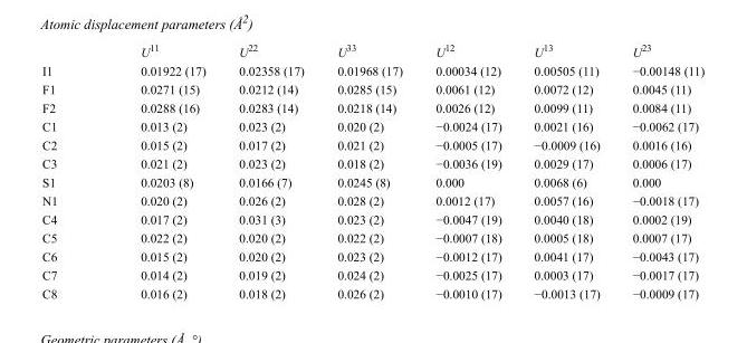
<table><thead><tr><td></td><td>U<sup>11</sup></td><td>U<sup>22</sup></td><td>U<sup>33</sup></td><td>U<sup>12</sup></td><td>U<sup>13</sup></td><td>U<sup>23</sup></td></tr></thead><tbody><tr><td>I1</td><td>0.01922 (17)</td><td>0.02358 (17)</td><td>0.01968 (17)</td><td>0.00034 (12)</td><td>0.00505 (11)</td><td>−0.00148 (11)</td></tr><tr><td>F1</td><td>0.0271 (15)</td><td>0.0212 (14)</td><td>0.0285 (15)</td><td>0.0061 (12)</td><td>0.0072 (12)</td><td>0.0045 (11)</td></tr><tr><td>F2</td><td>0.0288 (16)</td><td>0.0283 (14)</td><td>0.0218 (14)</td><td>0.0026 (12)</td><td>0.0099 (11)</td><td>0.0084 (11)</td></tr><tr><td>C1</td><td>0.013 (2)</td><td>0.023 (2)</td><td>0.020 (2)</td><td>−0.0024 (17)</td><td>0.0021 (16)</td><td>−0.0062 (17)</td></tr><tr><td>C2</td><td>0.015 (2)</td><td>0.017 (2)</td><td>0.021 (2)</td><td>−0.0005 (17)</td><td>−0.0009 (16)</td><td>0.0016 (16)</td></tr><tr><td>C3</td><td>0.021 (2)</td><td>0.023 (2)</td><td>0.018 (2)</td><td>−0.0036 (19)</td><td>0.0029 (17)</td><td>0.0006 (17)</td></tr><tr><td>S1</td><td>0.0203 (8)</td><td>0.0166 (7)</td><td>0.0245 (8)</td><td>0.000</td><td>0.0068 (6)</td><td>0.000</td></tr><tr><td>N1</td><td>0.020 (2)</td><td>0.026 (2)</td><td>0.028 (2)</td><td>0.0012 (17)</td><td>0.0057 (16)</td><td>−0.0018 (17)</td></tr><tr><td>C4</td><td>0.017 (2)</td><td>0.031 (3)</td><td>0.023 (2)</td><td>−0.0047 (19)</td><td>0.0040 (18)</td><td>0.0002 (19)</td></tr><tr><td>C5</td><td>0.022 (2)</td><td>0.020 (2)</td><td>0.022 (2)</td><td>−0.0007 (18)</td><td>0.0005 (18)</td><td>0.0007 (17)</td></tr><tr><td>C6</td><td>0.015 (2)</td><td>0.020 (2)</td><td>0.023 (2)</td><td>−0.0012 (17)</td><td>0.0041 (17)</td><td>−0.0043 (17)</td></tr><tr><td>C7</td><td>0.014 (2)</td><td>0.019 (2)</td><td>0.024 (2)</td><td>−0.0025 (17)</td><td>0.0003 (17)</td><td>−0.0017 (17)</td></tr><tr><td>C8</td><td>0.016 (2)</td><td>0.018 (2)</td><td>0.026 (2)</td><td>−0.0010 (17)</td><td>−0.0013 (17)</td><td>−0.0009 (17)</td></tr></tbody></table>